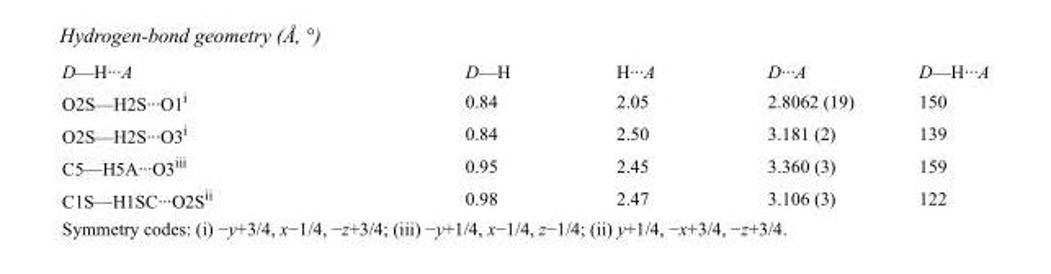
<table><tbody><tr><td>D—H···A</td><td>D—H</td><td>H···A</td><td>D···A</td><td>D—H···A</td></tr><tr><td>O2S—H2S···O1<sup>i</sup></td><td>0.84</td><td>2.05</td><td>2.8062 (19)</td><td>150</td></tr><tr><td>O2S—H2S···O3<sup>i</sup></td><td>0.84</td><td>2.50</td><td>3.181 (2)</td><td>139</td></tr><tr><td>C5—H5A···O3<sup>iii</sup></td><td>0.95</td><td>2.45</td><td>3.360 (3)</td><td>159</td></tr><tr><td>C1S—H1SC···O2S<sup>ii</sup></td><td>0.98</td><td>2.47</td><td>3.106 (3)</td><td>122</td></tr></tbody></table>